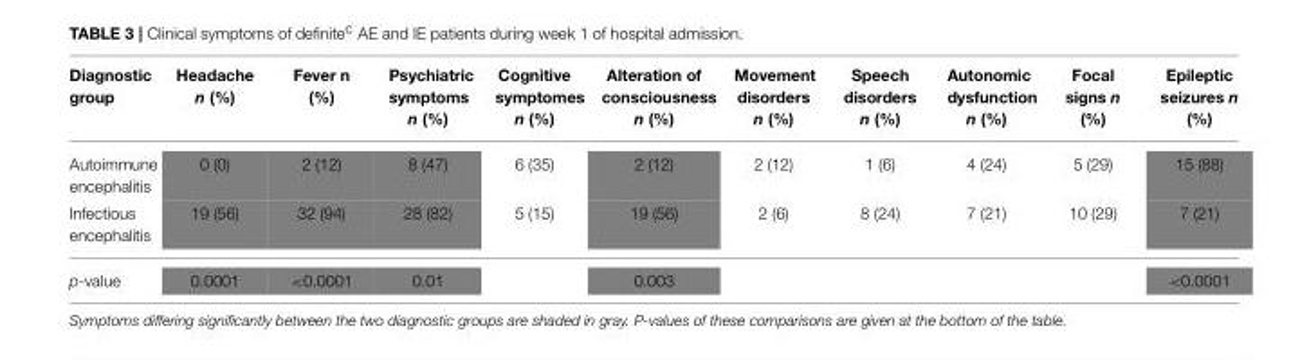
<table><thead><tr><td>Diagnostic group</td><td>Headache n (%)</td><td>Fever n (%)</td><td>Psychiatric symptoms n (%)</td><td>Cognitive symptomes n (%)</td><td>Alteration of consciousness n (%)</td><td>Movement disorders n (%)</td><td>Speech disorders n (%)</td><td>Autonomic dysfunction n (%)</td><td>Focal signs n (%)</td><td>Epileptic seizures n (%)</td></tr></thead><tbody><tr><td>Autoimmune encephalitis</td><td>0 (0)</td><td>2 (12)</td><td>8 (47)</td><td>6 (35)</td><td>2 (12)</td><td>2 (12)</td><td>1 (6)</td><td>4 (24)</td><td>5 (29)</td><td>15 (88)</td></tr><tr><td>Infectious encephalitis</td><td>19 (56)</td><td>32 (94)</td><td>28 (82)</td><td>5 (15)</td><td>19 (56)</td><td>2 (6)</td><td>8 (24)</td><td>7 (21)</td><td>10 (29)</td><td>7 (21)</td></tr><tr><td>p-value</td><td>0.0001</td><td>&lt;0.0001</td><td>0.01</td><td></td><td>0.003</td><td></td><td></td><td></td><td></td><td>&lt;0.0001</td></tr></tbody></table>